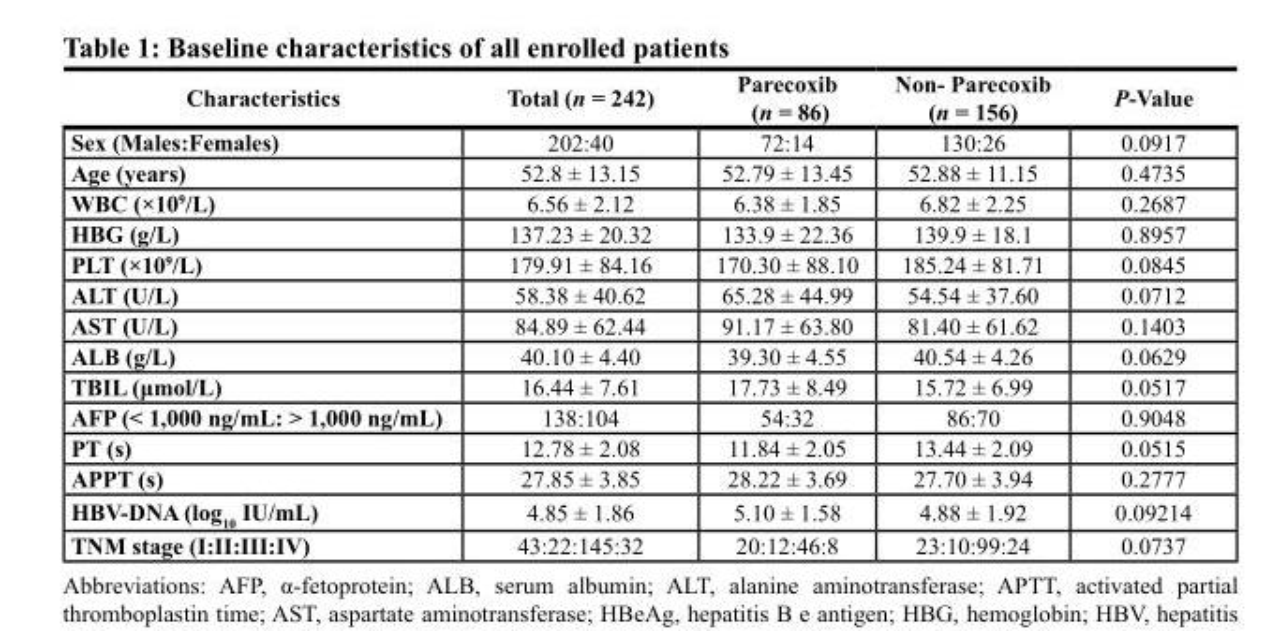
<table><thead><tr><td>Characteristics</td><td>Total (n = 242)</td><td>Parecoxib (n = 86)</td><td>Non- Parecoxib (n = 156)</td><td>P-Value</td></tr></thead><tbody><tr><td>Sex (Males:Females)</td><td>202:40</td><td>72:14</td><td>130:26</td><td>0.0917</td></tr><tr><td>Age (years)</td><td>52.8 ± 13.15</td><td>52.79 ± 13.45</td><td>52.88 ± 11.15</td><td>0.4735</td></tr><tr><td>WBC (×10<sup>9</sup>/L)</td><td>6.56 ± 2.12</td><td>6.38 ± 1.85</td><td>6.82 ± 2.25</td><td>0.2687</td></tr><tr><td>HBG (g/L)</td><td>137.23 ± 20.32</td><td>133.9 ± 22.36</td><td>139.9 ± 18.1</td><td>0.8957</td></tr><tr><td>PLT (×10<sup>9</sup>/L)</td><td>179.91 ± 84.16</td><td>170.30 ± 88.10</td><td>185.24 ± 81.71</td><td>0.0845</td></tr><tr><td>ALT (U/L)</td><td>58.38 ± 40.62</td><td>65.28 ± 44.99</td><td>54.54 ± 37.60</td><td>0.0712</td></tr><tr><td>AST (U/L)</td><td>84.89 ± 62.44</td><td>91.17 ± 63.80</td><td>81.40 ± 61.62</td><td>0.1403</td></tr><tr><td>ALB (g/L)</td><td>40.10 ± 4.40</td><td>39.30 ± 4.55</td><td>40.54 ± 4.26</td><td>0.0629</td></tr><tr><td>TBIL (μmol/L)</td><td>16.44 ± 7.61</td><td>17.73 ± 8.49</td><td>15.72 ± 6.99</td><td>0.0517</td></tr><tr><td>AFP (&lt; 1,000 ng/mL: &gt; 1,000 ng/mL)</td><td>138:104</td><td>54:32</td><td>86:70</td><td>0.9048</td></tr><tr><td>PT (s)</td><td>12.78 ± 2.08</td><td>11.84 ± 2.05</td><td>13.44 ± 2.09</td><td>0.0515</td></tr><tr><td>APPT (s)</td><td>27.85 ± 3.85</td><td>28.22 ± 3.69</td><td>27.70 ± 3.94</td><td>0.2777</td></tr><tr><td>HBV-DNA (log<sub>10</sub> IU/mL)</td><td>4.85 ± 1.86</td><td>5.10 ± 1.58</td><td>4.88 ± 1.92</td><td>0.09214</td></tr><tr><td>TNM stage (I:II:III:IV)</td><td>43:22:145:32</td><td>20:12:46:8</td><td>23:10:99:24</td><td>0.0737</td></tr></tbody></table>